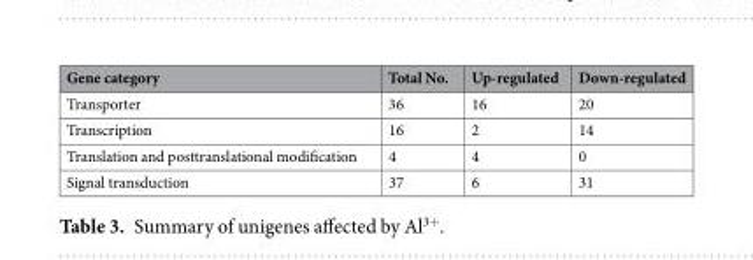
<table><thead><tr><td>Gene category</td><td>Total No.</td><td>Up-regulated</td><td>Down-regulated</td></tr></thead><tbody><tr><td>Transporter</td><td>36</td><td>16</td><td>20</td></tr><tr><td>Transcription</td><td>16</td><td>2</td><td>14</td></tr><tr><td>Translation and posttranslational modification</td><td>4</td><td>4</td><td>0</td></tr><tr><td>Signal transduction</td><td>37</td><td>6</td><td>31</td></tr></tbody></table>